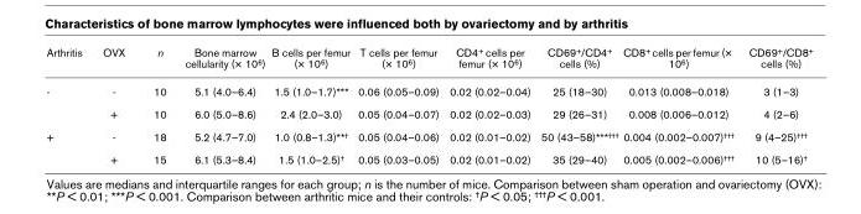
<table><thead><tr><td>Arthritis</td><td>OVX</td><td>n</td><td>Bone marrow cellularity (× 106)</td><td>B cells per femur (× 106)</td><td>T cells per femur (× 106)</td><td>CD4+ cells per femur (× 106)</td><td>CD69+/CD4+ cells (%)</td><td>CD8+ cells per femur (× 106)</td><td>CD69+/CD8+ cells (%)</td></tr></thead><tbody><tr><td rowspan="2">-</td><td>-</td><td>10</td><td>5.1 (4.0–6.4)</td><td>1.5 (1.0–1.7)***</td><td>0.06 (0.05–0.09)</td><td>0.02 (0.02–0.04)</td><td>25 (18–30)</td><td>0.013 (0.008–0.018)</td><td>3 (1–3)</td></tr><tr><td>+</td><td>10</td><td>6.0 (5.0–8.6)</td><td>2.4 (2.0–3.0)</td><td>0.05 (0.04–0.07)</td><td>0.02 (0.02–0.03)</td><td>29 (26–31)</td><td>0.008 (0.006–0.012)</td><td>4 (2–6)</td></tr><tr><td rowspan="2">+</td><td>-</td><td>18</td><td>5.2 (4.7–7.0)</td><td>1.0 (0.8–1.3)**†</td><td>0.05 (0.04–0.06)</td><td>0.02 (0.01–0.02)</td><td>50 (43–58)***†††</td><td>0.004 (0.002–0.007)†††</td><td>9 (4–25)†††</td></tr><tr><td>+</td><td>15</td><td>6.1 (5.3–8.4)</td><td>1.5 (1.0–2.5)†</td><td>0.05 (0.03–0.05)</td><td>0.02 (0.01–0.02)</td><td>35 (29–40)</td><td>0.005 (0.002–0.006)†††</td><td>10 (5–16)†</td></tr></tbody></table>